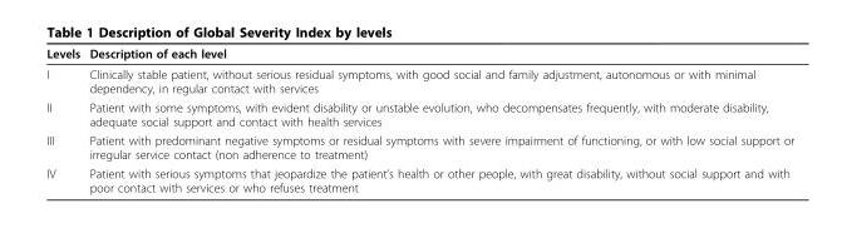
<table><thead><tr><td>Levels</td><td>Description of each level</td></tr></thead><tbody><tr><td>I</td><td>Clinically stable patient, without serious residual symptoms, with good social and family adjustment, autonomous or with minimal dependency, in regular contact with services</td></tr><tr><td>II</td><td>Patient with some symptoms, with evident disability or unstable evolution, who decompensates frequently, with moderate disability, adequate social support and contact with health services</td></tr><tr><td>III</td><td>Patient with predominant negative symptoms or residual symptoms with severe impairment of functioning, or with low social support or irregular service contact (non adherence to treatment)</td></tr><tr><td>IV</td><td>Patient with serious symptoms that jeopardize the patient’s health or other people, with great disability, without social support and with poor contact with services or who refuses treatment</td></tr></tbody></table>